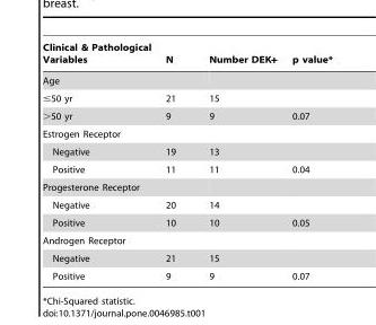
<table><thead><tr><td>Clinical &amp; Pathological Variables</td><td>N</td><td>Number DEK+</td><td>p value*</td></tr></thead><tbody><tr><td colspan="4">Age</td></tr><tr><td>≤50 yr</td><td>21</td><td>15</td><td></td></tr><tr><td>&gt;50 yr</td><td>9</td><td>9</td><td>0.07</td></tr><tr><td colspan="4">Estrogen Receptor</td></tr><tr><td>Negative</td><td>19</td><td>13</td><td></td></tr><tr><td>Positive</td><td>11</td><td>11</td><td>0.04</td></tr><tr><td colspan="4">Progesterone Receptor</td></tr><tr><td>Negative</td><td>20</td><td>14</td><td></td></tr><tr><td>Positive</td><td>10</td><td>10</td><td>0.05</td></tr><tr><td colspan="4">Androgen Receptor</td></tr><tr><td>Negative</td><td>21</td><td>15</td><td></td></tr><tr><td>Positive</td><td>9</td><td>9</td><td>0.07</td></tr></tbody></table>